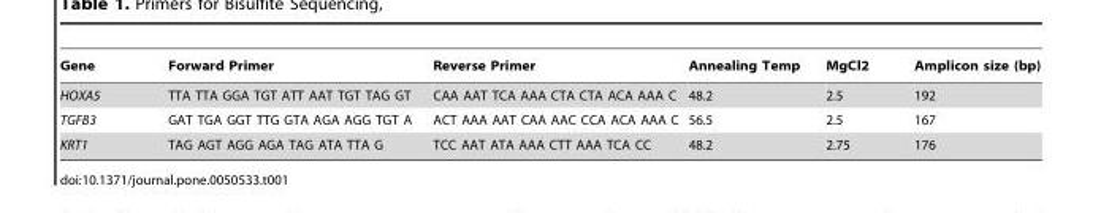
<table><thead><tr><td>Gene</td><td>Forward Primer</td><td>Reverse Primer</td><td>Annealing Temp</td><td>MgCl2</td><td>Amplicon size (bp)</td></tr></thead><tbody><tr><td>HOXA5</td><td>TTA TTA GGA TGT ATT AAT TGT TAG GT</td><td>CAA AAT TCA AAA CTA CTA ACA AAA C</td><td>48.2</td><td>2.5</td><td>192</td></tr><tr><td>TGFB3</td><td>GAT TGA GGT TTG GTA AGA AGG TGT A</td><td>ACT AAA AAT CAA AAC CCA ACA AAA C</td><td>56.5</td><td>2.5</td><td>167</td></tr><tr><td>KRT1</td><td>TAG AGT AGG AGA TAG ATA TTA G</td><td>TCC AAT ATA AAA CTT AAA TCA CC</td><td>48.2</td><td>2.75</td><td>176</td></tr></tbody></table>